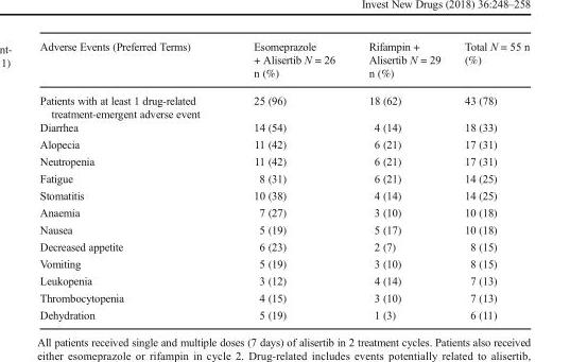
<table><thead><tr><td>Adverse Events (Preferred Terms)</td><td>Esomeprazole + Alisertib N = 26 n (%)</td><td>Rifampin + Alisertib N = 29 n (%)</td><td>Total N = 55 n (%)</td></tr></thead><tbody><tr><td>Patients with at least 1 drug-related treatment-emergent adverse event</td><td>25 (96)</td><td>18 (62)</td><td>43 (78)</td></tr><tr><td>Diarrhea</td><td>14 (54)</td><td>4 (14)</td><td>18 (33)</td></tr><tr><td>Alopecia</td><td>11 (42)</td><td>6 (21)</td><td>17 (31)</td></tr><tr><td>Neutropenia</td><td>11 (42)</td><td>6 (21)</td><td>17 (31)</td></tr><tr><td>Fatigue</td><td>8 (31)</td><td>6 (21)</td><td>14 (25)</td></tr><tr><td>Stomatitis</td><td>10 (38)</td><td>4 (14)</td><td>14 (25)</td></tr><tr><td>Anaemia</td><td>7 (27)</td><td>3 (10)</td><td>10 (18)</td></tr><tr><td>Nausea</td><td>5 (19)</td><td>5 (17)</td><td>10 (18)</td></tr><tr><td>Decreased appetite</td><td>6 (23)</td><td>2 (7)</td><td>8 (15)</td></tr><tr><td>Vomiting</td><td>5 (19)</td><td>3 (10)</td><td>8 (15)</td></tr><tr><td>Leukopenia</td><td>3 (12)</td><td>4 (14)</td><td>7 (13)</td></tr><tr><td>Thrombocytopenia</td><td>4 (15)</td><td>3 (10)</td><td>7 (13)</td></tr><tr><td>Dehydration</td><td>5 (19)</td><td>1 (3)</td><td>6 (11)</td></tr></tbody></table>